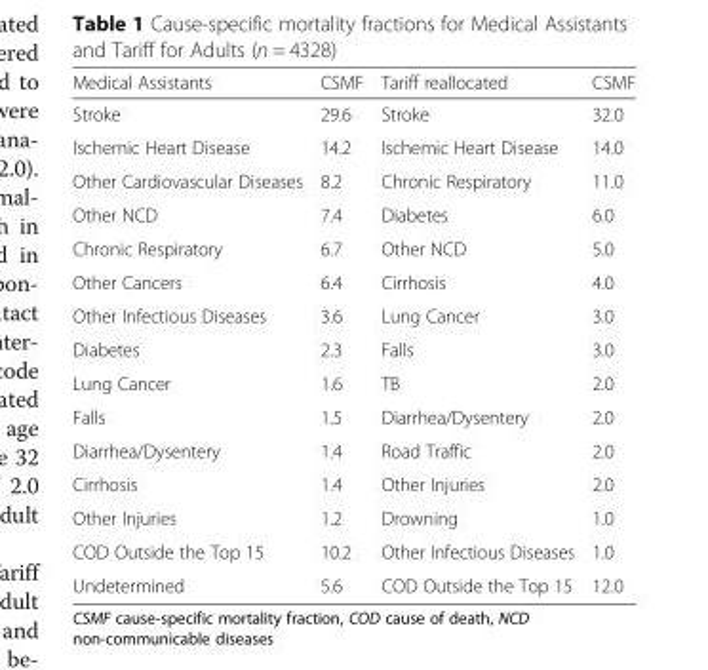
<table><thead><tr><td>Medical Assistants</td><td>CSMF</td><td>Tariff reallocated</td><td>CSMF</td></tr></thead><tbody><tr><td>Stroke</td><td>29.6</td><td>Stroke</td><td>32.0</td></tr><tr><td>Ischemic Heart Disease</td><td>14.2</td><td>Ischemic Heart Disease</td><td>14.0</td></tr><tr><td>Other Cardiovascular Diseases</td><td>8.2</td><td>Chronic Respiratory</td><td>11.0</td></tr><tr><td>Other NCD</td><td>7.4</td><td>Diabetes</td><td>6.0</td></tr><tr><td>Chronic Respiratory</td><td>6.7</td><td>Other NCD</td><td>5.0</td></tr><tr><td>Other Cancers</td><td>6.4</td><td>Cirrhosis</td><td>4.0</td></tr><tr><td>Other Infectious Diseases</td><td>3.6</td><td>Lung Cancer</td><td>3.0</td></tr><tr><td>Diabetes</td><td>2.3</td><td>Falls</td><td>3.0</td></tr><tr><td>Lung Cancer</td><td>1.6</td><td>TB</td><td>2.0</td></tr><tr><td>Falls</td><td>1.5</td><td>Diarrhea/Dysentery</td><td>2.0</td></tr><tr><td>Diarrhea/Dysentery</td><td>1.4</td><td>Road Traffic</td><td>2.0</td></tr><tr><td>Cirrhosis</td><td>1.4</td><td>Other Injuries</td><td>2.0</td></tr><tr><td>Other Injuries</td><td>1.2</td><td>Drowning</td><td>1.0</td></tr><tr><td>COD Outside the Top 15</td><td>10.2</td><td>Other Infectious Diseases</td><td>1.0</td></tr><tr><td>Undetermined</td><td>5.6</td><td>COD Outside the Top 15</td><td>12.0</td></tr></tbody></table>